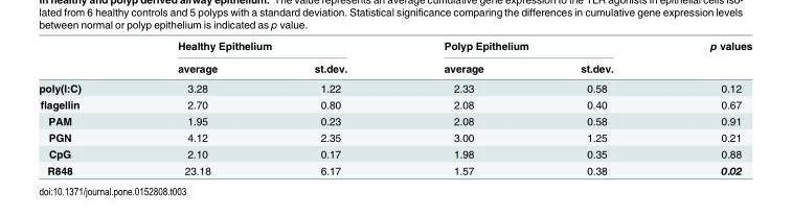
<table><thead><tr><td rowspan="2"></td><td colspan="2">Healthy Epithelium</td><td colspan="2">Polyp Epithelium</td><td rowspan="2">p values</td></tr><tr><td>average</td><td>st.dev.</td><td>average</td><td>st.dev.</td></tr></thead><tbody><tr><td>poly(I:C)</td><td>3.28</td><td>1.22</td><td>2.33</td><td>0.58</td><td>0.12</td></tr><tr><td>flagellin</td><td>2.70</td><td>0.80</td><td>2.08</td><td>0.40</td><td>0.67</td></tr><tr><td>PAM</td><td>1.95</td><td>0.23</td><td>2.08</td><td>0.58</td><td>0.91</td></tr><tr><td>PGN</td><td>4.12</td><td>2.35</td><td>3.00</td><td>1.25</td><td>0.21</td></tr><tr><td>CpG</td><td>2.10</td><td>0.17</td><td>1.98</td><td>0.35</td><td>0.88</td></tr><tr><td>R848</td><td>23.18</td><td>6.17</td><td>1.57</td><td>0.38</td><td>0.02</td></tr></tbody></table>